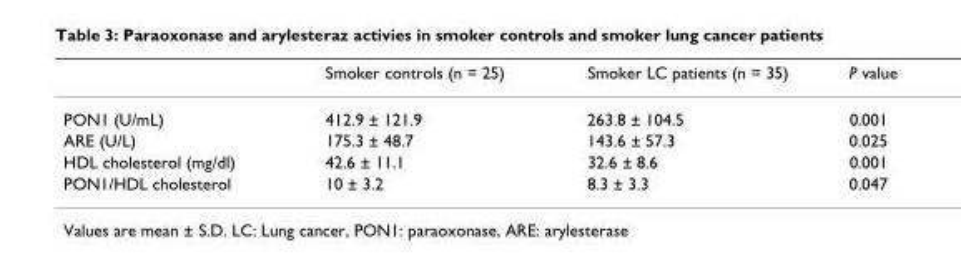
<table><thead><tr><td></td><td>Smoker controls (n = 25)</td><td>Smoker LC patients (n = 35)</td><td>P value</td></tr></thead><tbody><tr><td>PON1 (U/mL)</td><td>412.9 ± 121.9</td><td>263.8 ± 104.5</td><td>0.001</td></tr><tr><td>ARE (U/L)</td><td>175.3 ± 48.7</td><td>143.6 ± 57.3</td><td>0.025</td></tr><tr><td>HDL cholesterol (mg/dl)</td><td>42.6 ± 11.1</td><td>32.6 ± 8.6</td><td>0.001</td></tr><tr><td>PON1/HDL cholesterol</td><td>10 ± 3.2</td><td>8.3 ± 3.3</td><td>0.047</td></tr></tbody></table>